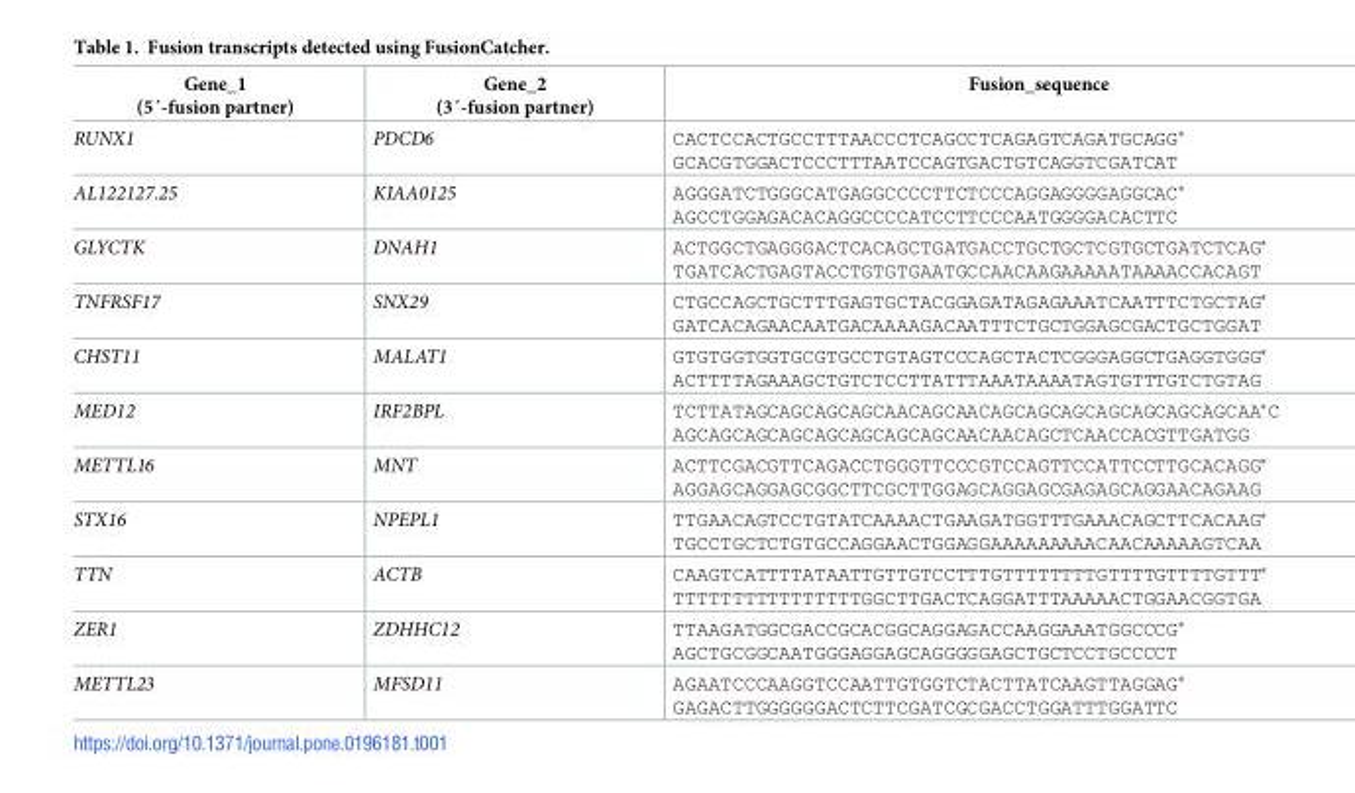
<table><thead><tr><td>Gene_1 (5´-fusion partner)</td><td>Gene_2 (3´-fusion partner)</td><td>Fusion_sequence</td></tr></thead><tbody><tr><td>RUNX1</td><td>PDCD6</td><td>CACTCCACTGCCTTTAACCCTCAGCCTCAGAGTCAGATGCAGG* GCACGTGGACTCCCTTTAATCCAGTGACTGTCAGGTCGATCAT</td></tr><tr><td>AL122127.25</td><td>KIAA0125</td><td>AGGGATCTGGGCATGAGGCCCCTTCTCCCAGGAGGGGAGGCAC* AGCCTGGAGACACAGGCCCCATCCTTCCCAATGGGGACACTTC</td></tr><tr><td>GLYCTK</td><td>DNAH1</td><td>ACTGGCTGAGGGACTCACAGCTGATGACCTGCTGCTCGTGCTGATCTCAG* TGATCACTGAGTACCTGTGTGAATGCCAACAAGAAAAATAAAACCACAGT</td></tr><tr><td>TNFRSF17</td><td>SNX29</td><td>CTGCCAGCTGCTTTGAGTGCTACGGAGATAGAGAAATCAATTTCTGCTAG* GATCACAGAACAATGACAAAAGACAATTTCTGCTGGAGCGACTGCTGGAT</td></tr><tr><td>CHST11</td><td>MALAT1</td><td>GTGTGGTGGTGCGTGCCTGTAGTCCCAGCTACTCGGGAGGCTGAGGTGGG* ACTTTTAGAAAGCTGTCTCCTTATTTAAATAAAATAGTGTTTGTCTGTAG</td></tr><tr><td>MED12</td><td>IRF2BPL</td><td>TCTTATAGCAGCAGCAGCAACAGCAACAGCAGCAGCAGCAGCAGCAGCAA*C AGCAGCAGCAGCAGCAGCAGCAGCAACAACAGCTCAACCACGTTGATGG</td></tr><tr><td>METTL16</td><td>MNT</td><td>ACTTCGACGTTCAGACCTGGGTTCCCGTCCAGTTCCATTCCTTGCACAGG* AGGAGCAGGAGCGGCTTCGCTTGGAGCAGGAGCGAGAGCAGGAACAGAAG</td></tr><tr><td>STX16</td><td>NPEPL1</td><td>TTGAACAGTCCTGTATCAAAACTGAAGATGGTTTGAAACAGCTTCACAAG* TGCCTGCTCTGTGCCAGGAACTGGAGGAAAAAAAAACAACAAAAAGTCAA</td></tr><tr><td>TTN</td><td>ACTB</td><td>CAAGTCATTTTATAATTGTTGTCCTTTGTTTTTTTTGTTTTGTTTTGTTT* TTTTTTTTTTTTTTTTGGCTTGACTCAGGATTTAAAAACTGGAACGGTGA</td></tr><tr><td>ZER1</td><td>ZDHHC12</td><td>TTAAGATGGCGACCGCACGGCAGGAGACCAAGGAAATGGCCCG* AGCTGCGGCAATGGGAGGAGCAGGGGGAGCTGCTCCTGCCCCT</td></tr><tr><td>METTL23</td><td>MFSD11</td><td>AGAATCCCAAGGTCCAATTGTGGTCTACTTATCAAGTTAGGAG* GAGACTTGGGGGGACTCTTCGATCGCGACCTGGATTTGGATTC</td></tr></tbody></table>